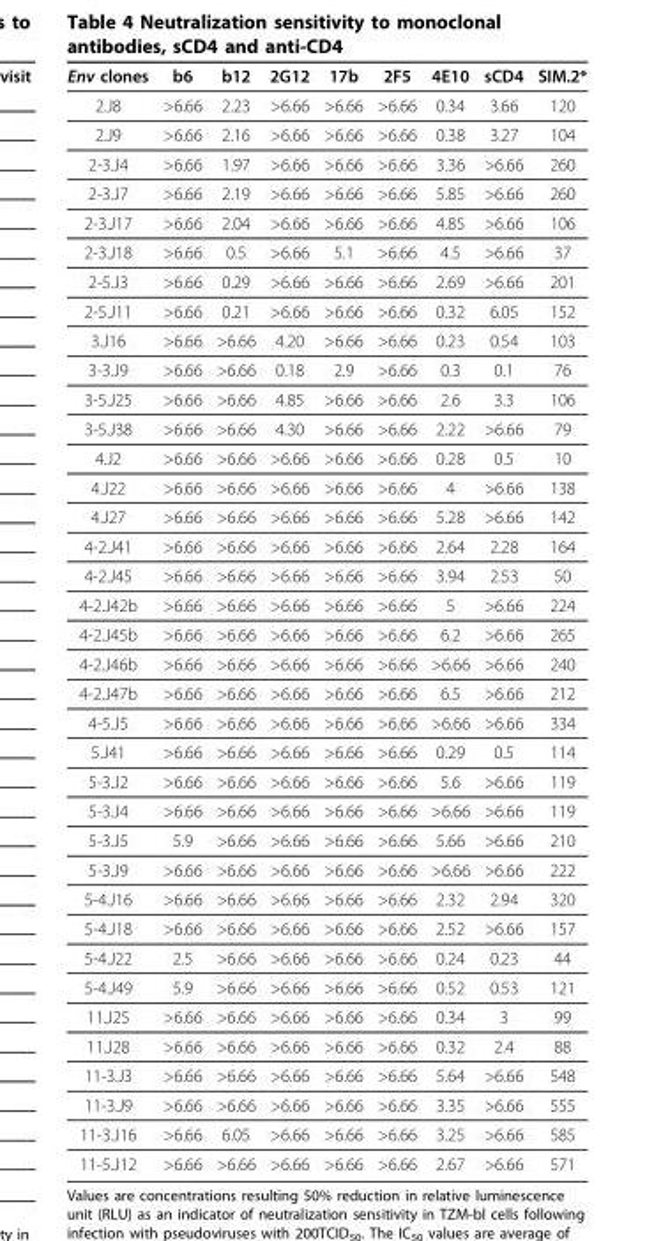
<table><thead><tr><td>Env clones</td><td>b6</td><td>b12</td><td>2G12</td><td>17b</td><td>2F5</td><td>4E10</td><td>sCD4</td><td>SIM.2*</td></tr></thead><tbody><tr><td>2.J8</td><td>&gt;6.66</td><td>2.23</td><td>&gt;6.66</td><td>&gt;6.66</td><td>&gt;6.66</td><td>0.34</td><td>3.66</td><td>120</td></tr><tr><td>2.J9</td><td>&gt;6.66</td><td>2.16</td><td>&gt;6.66</td><td>&gt;6.66</td><td>&gt;6.66</td><td>0.38</td><td>3.27</td><td>104</td></tr><tr><td>2-3.J4</td><td>&gt;6.66</td><td>1.97</td><td>&gt;6.66</td><td>&gt;6.66</td><td>&gt;6.66</td><td>3.36</td><td>&gt;6.66</td><td>260</td></tr><tr><td>2-3.J7</td><td>&gt;6.66</td><td>2.19</td><td>&gt;6.66</td><td>&gt;6.66</td><td>&gt;6.66</td><td>5.85</td><td>&gt;6.66</td><td>260</td></tr><tr><td>2-3.J17</td><td>&gt;6.66</td><td>2.04</td><td>&gt;6.66</td><td>&gt;6.66</td><td>&gt;6.66</td><td>4.85</td><td>&gt;6.66</td><td>106</td></tr><tr><td>2-3.J18</td><td>&gt;6.66</td><td>0.5</td><td>&gt;6.66</td><td>5.1</td><td>&gt;6.66</td><td>4.5</td><td>&gt;6.66</td><td>37</td></tr><tr><td>2-5.J3</td><td>&gt;6.66</td><td>0.29</td><td>&gt;6.66</td><td>&gt;6.66</td><td>&gt;6.66</td><td>2.69</td><td>&gt;6.66</td><td>201</td></tr><tr><td>2-5.J11</td><td>&gt;6.66</td><td>0.21</td><td>&gt;6.66</td><td>&gt;6.66</td><td>&gt;6.66</td><td>0.32</td><td>6.05</td><td>152</td></tr><tr><td>3.J16</td><td>&gt;6.66</td><td>&gt;6.66</td><td>4.20</td><td>&gt;6.66</td><td>&gt;6.66</td><td>0.23</td><td>0.54</td><td>103</td></tr><tr><td>3-3.J9</td><td>&gt;6.66</td><td>&gt;6.66</td><td>0.18</td><td>2.9</td><td>&gt;6.66</td><td>0.3</td><td>0.1</td><td>76</td></tr><tr><td>3-5.J25</td><td>&gt;6.66</td><td>&gt;6.66</td><td>4.85</td><td>&gt;6.66</td><td>&gt;6.66</td><td>2.6</td><td>3.3</td><td>106</td></tr><tr><td>3-5.J38</td><td>&gt;6.66</td><td>&gt;6.66</td><td>4.30</td><td>&gt;6.66</td><td>&gt;6.66</td><td>2.22</td><td>&gt;6.66</td><td>79</td></tr><tr><td>4.J2</td><td>&gt;6.66</td><td>&gt;6.66</td><td>&gt;6.66</td><td>&gt;6.66</td><td>&gt;6.66</td><td>0.28</td><td>0.5</td><td>10</td></tr><tr><td>4.J22</td><td>&gt;6.66</td><td>&gt;6.66</td><td>&gt;6.66</td><td>&gt;6.66</td><td>&gt;6.66</td><td>4</td><td>&gt;6.66</td><td>138</td></tr><tr><td>4.J27</td><td>&gt;6.66</td><td>&gt;6.66</td><td>&gt;6.66</td><td>&gt;6.66</td><td>&gt;6.66</td><td>5.28</td><td>&gt;6.66</td><td>142</td></tr><tr><td>4-2.J41</td><td>&gt;6.66</td><td>&gt;6.66</td><td>&gt;6.66</td><td>&gt;6.66</td><td>&gt;6.66</td><td>2.64</td><td>2.28</td><td>164</td></tr><tr><td>4-2.J45</td><td>&gt;6.66</td><td>&gt;6.66</td><td>&gt;6.66</td><td>&gt;6.66</td><td>&gt;6.66</td><td>3.94</td><td>2.53</td><td>50</td></tr><tr><td>4-2.J42b</td><td>&gt;6.66</td><td>&gt;6.66</td><td>&gt;6.66</td><td>&gt;6.66</td><td>&gt;6.66</td><td>5</td><td>&gt;6.66</td><td>224</td></tr><tr><td>4-2.J45b</td><td>&gt;6.66</td><td>&gt;6.66</td><td>&gt;6.66</td><td>&gt;6.66</td><td>&gt;6.66</td><td>6.2</td><td>&gt;6.66</td><td>265</td></tr><tr><td>4-2.J46b</td><td>&gt;6.66</td><td>&gt;6.66</td><td>&gt;6.66</td><td>&gt;6.66</td><td>&gt;6.66</td><td>&gt;6.66</td><td>&gt;6.66</td><td>240</td></tr><tr><td>4-2.J47b</td><td>&gt;6.66</td><td>&gt;6.66</td><td>&gt;6.66</td><td>&gt;6.66</td><td>&gt;6.66</td><td>6.5</td><td>&gt;6.66</td><td>212</td></tr><tr><td>4-5.J5</td><td>&gt;6.66</td><td>&gt;6.66</td><td>&gt;6.66</td><td>&gt;6.66</td><td>&gt;6.66</td><td>&gt;6.66</td><td>&gt;6.66</td><td>334</td></tr><tr><td>5.J41</td><td>&gt;6.66</td><td>&gt;6.66</td><td>&gt;6.66</td><td>&gt;6.66</td><td>&gt;6.66</td><td>0.29</td><td>0.5</td><td>114</td></tr><tr><td>5-3.J2</td><td>&gt;6.66</td><td>&gt;6.66</td><td>&gt;6.66</td><td>&gt;6.66</td><td>&gt;6.66</td><td>5.6</td><td>&gt;6.66</td><td>119</td></tr><tr><td>5-3.J4</td><td>&gt;6.66</td><td>&gt;6.66</td><td>&gt;6.66</td><td>&gt;6.66</td><td>&gt;6.66</td><td>&gt;6.66</td><td>&gt;6.66</td><td>119</td></tr><tr><td>5-3.J5</td><td>5.9</td><td>&gt;6.66</td><td>&gt;6.66</td><td>&gt;6.66</td><td>&gt;6.66</td><td>5.66</td><td>&gt;6.66</td><td>210</td></tr><tr><td>5-3.J9</td><td>&gt;6.66</td><td>&gt;6.66</td><td>&gt;6.66</td><td>&gt;6.66</td><td>&gt;6.66</td><td>&gt;6.66</td><td>&gt;6.66</td><td>222</td></tr><tr><td>5-4.J16</td><td>&gt;6.66</td><td>&gt;6.66</td><td>&gt;6.66</td><td>&gt;6.66</td><td>&gt;6.66</td><td>2.32</td><td>2.94</td><td>320</td></tr><tr><td>5-4.J18</td><td>&gt;6.66</td><td>&gt;6.66</td><td>&gt;6.66</td><td>&gt;6.66</td><td>&gt;6.66</td><td>2.52</td><td>&gt;6.66</td><td>157</td></tr><tr><td>5-4.J22</td><td>2.5</td><td>&gt;6.66</td><td>&gt;6.66</td><td>&gt;6.66</td><td>&gt;6.66</td><td>0.24</td><td>0.23</td><td>44</td></tr><tr><td>5-4.J49</td><td>5.9</td><td>&gt;6.66</td><td>&gt;6.66</td><td>&gt;6.66</td><td>&gt;6.66</td><td>0.52</td><td>0.53</td><td>121</td></tr><tr><td>11.J25</td><td>&gt;6.66</td><td>&gt;6.66</td><td>&gt;6.66</td><td>&gt;6.66</td><td>&gt;6.66</td><td>0.34</td><td>3</td><td>99</td></tr><tr><td>11.J28</td><td>&gt;6.66</td><td>&gt;6.66</td><td>&gt;6.66</td><td>&gt;6.66</td><td>&gt;6.66</td><td>0.32</td><td>2.4</td><td>88</td></tr><tr><td>11-3.J3</td><td>&gt;6.66</td><td>&gt;6.66</td><td>&gt;6.66</td><td>&gt;6.66</td><td>&gt;6.66</td><td>5.64</td><td>&gt;6.66</td><td>548</td></tr><tr><td>11-3.J9</td><td>&gt;6.66</td><td>&gt;6.66</td><td>&gt;6.66</td><td>&gt;6.66</td><td>&gt;6.66</td><td>3.35</td><td>&gt;6.66</td><td>555</td></tr><tr><td>11-3.J16</td><td>&gt;6.66</td><td>6.05</td><td>&gt;6.66</td><td>&gt;6.66</td><td>&gt;6.66</td><td>3.25</td><td>&gt;6.66</td><td>585</td></tr><tr><td>11-5.J12</td><td>&gt;6.66</td><td>&gt;6.66</td><td>&gt;6.66</td><td>&gt;6.66</td><td>&gt;6.66</td><td>2.67</td><td>&gt;6.66</td><td>571</td></tr></tbody></table>